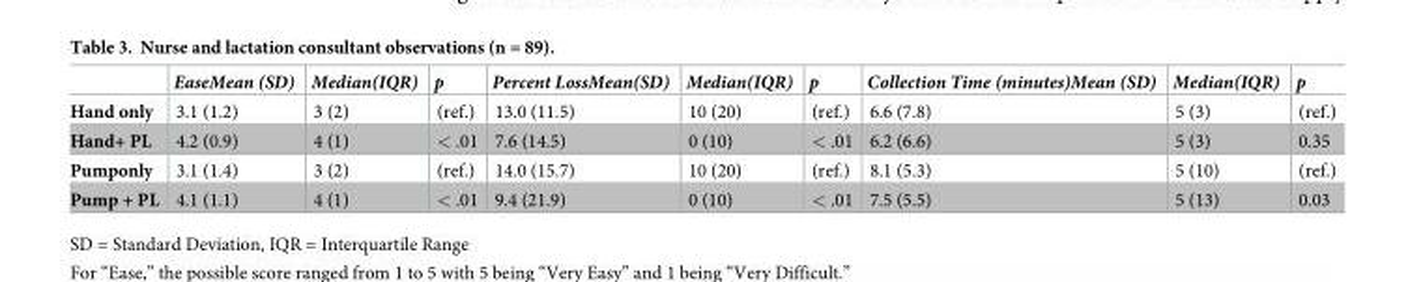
<table><thead><tr><td></td><td>EaseMean (SD)</td><td>Median(IQR)</td><td>p</td><td>Percent LossMean(SD)</td><td>Median(IQR)</td><td>p</td><td>Collection Time (minutes)Mean (SD)</td><td>Median(IQR)</td><td>p</td></tr></thead><tbody><tr><td>Hand only</td><td>3.1 (1.2)</td><td>3 (2)</td><td>(ref.)</td><td>13.0 (11.5)</td><td>10 (20)</td><td>(ref.)</td><td>6.6 (7.8)</td><td>5 (3)</td><td>(ref.)</td></tr><tr><td>Hand+ PL</td><td>4.2 (0.9)</td><td>4 (1)</td><td>&lt; .01</td><td>7.6 (14.5)</td><td>0 (10)</td><td>&lt; .01</td><td>6.2 (6.6)</td><td>5 (3)</td><td>0.35</td></tr><tr><td>Pumponly</td><td>3.1 (1.4)</td><td>3 (2)</td><td>(ref.)</td><td>14.0 (15.7)</td><td>10 (20)</td><td>(ref.)</td><td>8.1 (5.3)</td><td>5 (10)</td><td>(ref.)</td></tr><tr><td>Pump + PL</td><td>4.1 (1.1)</td><td>4 (1)</td><td>&lt; .01</td><td>9.4 (21.9)</td><td>0 (10)</td><td>&lt; .01</td><td>7.5 (5.5)</td><td>5 (13)</td><td>0.03</td></tr></tbody></table>